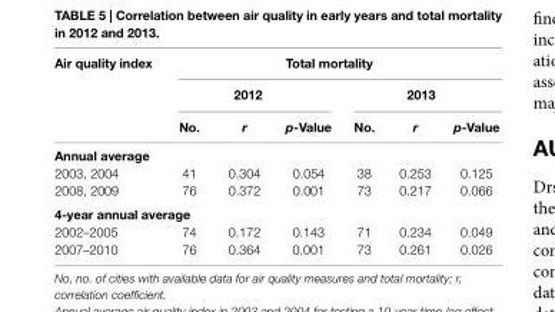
<table><thead><tr><td rowspan="3">air quality index</td><td colspan="6">Total mortality</td></tr><tr><td colspan="3">2012</td><td colspan="3">2013</td></tr><tr><td>no.</td><td>r</td><td>p-Value</td><td>no.</td><td>r</td><td>p-Value</td></tr></thead><tbody><tr><td colspan="7">annual average</td></tr><tr><td>2003, 2004</td><td>41</td><td>0.304</td><td>0.054</td><td>38</td><td>0.253</td><td>0.125</td></tr><tr><td>2008, 2009</td><td>76</td><td>0.372</td><td>0.001</td><td>73</td><td>0.217</td><td>0.066</td></tr><tr><td colspan="7">4-year annual average</td></tr><tr><td>2002–2005</td><td>74</td><td>0.172</td><td>0.143</td><td>71</td><td>0.234</td><td>0.049</td></tr><tr><td>2007–2010</td><td>76</td><td>0.364</td><td>0.001</td><td>73</td><td>0.261</td><td>0.026</td></tr></tbody></table>